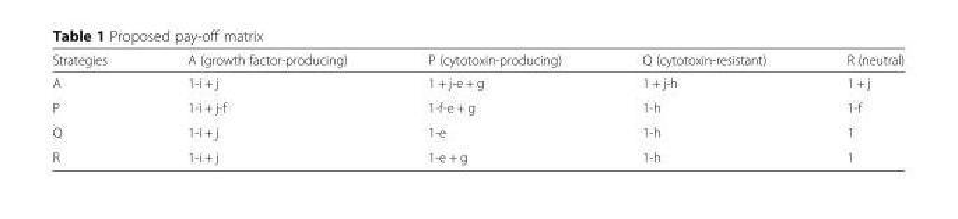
<table><thead><tr><td>Strategies</td><td>A (growth factor-producing)</td><td>P (cytotoxin-producing)</td><td>Q (cytotoxin-resistant)</td><td>R (neutral)</td></tr></thead><tbody><tr><td>A</td><td>1-i + j</td><td>1 + j-e + g</td><td>1 + j-h</td><td>1 + j</td></tr><tr><td>P</td><td>1-i + j-f</td><td>1-f-e + g</td><td>1-h</td><td>1-f</td></tr><tr><td>Q</td><td>1-i + j</td><td>1-e</td><td>1-h</td><td>1</td></tr><tr><td>R</td><td>1-i + j</td><td>1-e + g</td><td>1-h</td><td>1</td></tr></tbody></table>